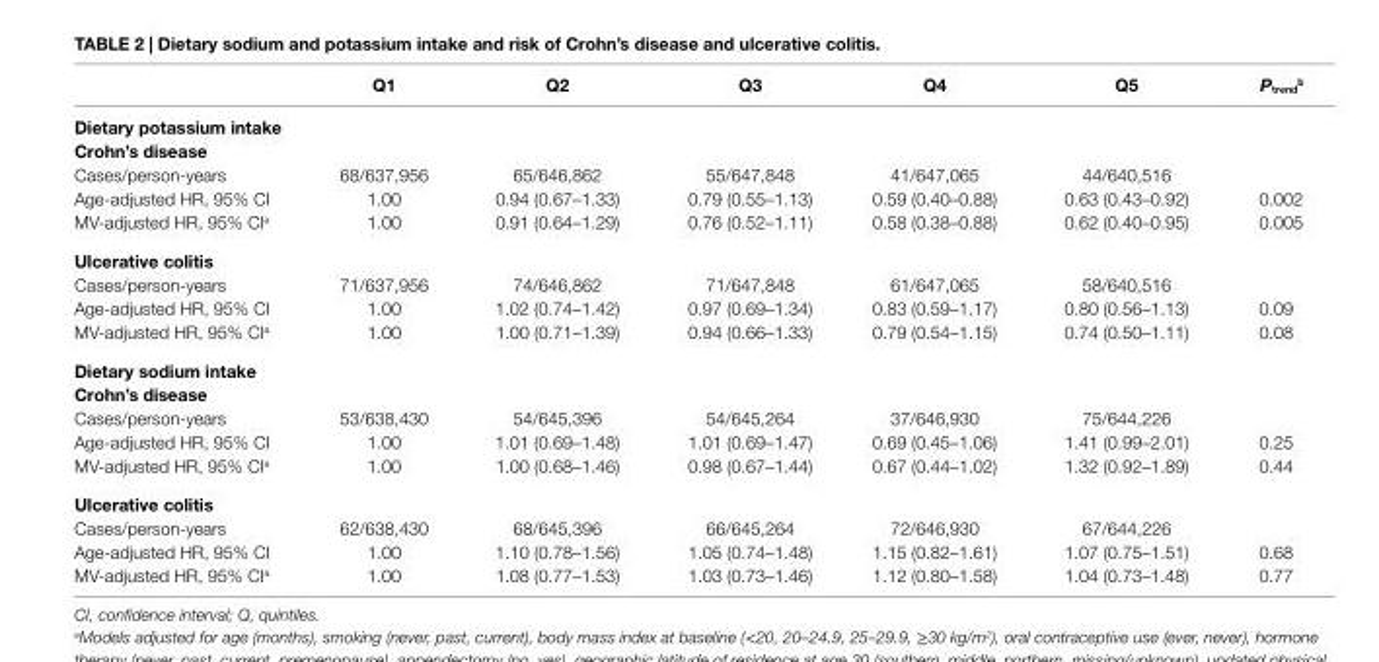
<table><thead><tr><td></td><td>Q1</td><td>Q2</td><td>Q3</td><td>Q4</td><td>Q5</td><td>P<sub>trend</sub><sup>b</sup></td></tr></thead><tbody><tr><td colspan="7">Dietary potassium intake</td></tr><tr><td colspan="7">crohn’s disease</td></tr><tr><td>Cases/person-years</td><td>68/637,956</td><td>65/646,862</td><td>55/647,848</td><td>41/647,065</td><td>44/640,516</td><td></td></tr><tr><td>Age-adjusted HR, 95% CI</td><td>1.00</td><td>0.94 (0.67–1.33)</td><td>0.79 (0.55–1.13)</td><td>0.59 (0.40–0.88)</td><td>0.63 (0.43–0.92)</td><td>0.002</td></tr><tr><td>MV-adjusted HR, 95% CI<sup>a</sup></td><td>1.00</td><td>0.91 (0.64–1.29)</td><td>0.76 (0.52–1.11)</td><td>0.58 (0.38–0.88)</td><td>0.62 (0.40–0.95)</td><td>0.005</td></tr><tr><td colspan="7">Ulcerative colitis</td></tr><tr><td>Cases/person-years</td><td>71/637,956</td><td>74/646,862</td><td>71/647,848</td><td>61/647,065</td><td>58/640,516</td><td></td></tr><tr><td>Age-adjusted HR, 95% CI</td><td>1.00</td><td>1.02 (0.74–1.42)</td><td>0.97 (0.69–1.34)</td><td>0.83 (0.59–1.17)</td><td>0.80 (0.56–1.13)</td><td>0.09</td></tr><tr><td>MV-adjusted HR, 95% CI<sup>a</sup></td><td>1.00</td><td>1.00 (0.71–1.39)</td><td>0.94 (0.66–1.33)</td><td>0.79 (0.54–1.15)</td><td>0.74 (0.50–1.11)</td><td>0.08</td></tr><tr><td colspan="7">Dietary sodium intake</td></tr><tr><td colspan="7">crohn’s disease</td></tr><tr><td>Cases/person-years</td><td>53/638,430</td><td>54/645,396</td><td>54/645,264</td><td>37/646,930</td><td>75/644,226</td><td></td></tr><tr><td>Age-adjusted HR, 95% CI</td><td>1.00</td><td>1.01 (0.69–1.48)</td><td>1.01 (0.69–1.47)</td><td>0.69 (0.45–1.06)</td><td>1.41 (0.99–2.01)</td><td>0.25</td></tr><tr><td>MV-adjusted HR, 95% CI<sup>a</sup></td><td>1.00</td><td>1.00 (0.68–1.46)</td><td>0.98 (0.67–1.44)</td><td>0.67 (0.44–1.02)</td><td>1.32 (0.92–1.89)</td><td>0.44</td></tr><tr><td colspan="7">Ulcerative colitis</td></tr><tr><td>Cases/person-years</td><td>62/638,430</td><td>68/645,396</td><td>66/645,264</td><td>72/646,930</td><td>67/644,226</td><td></td></tr><tr><td>Age-adjusted HR, 95% CI</td><td>1.00</td><td>1.10 (0.78–1.56)</td><td>1.05 (0.74–1.48)</td><td>1.15 (0.82–1.61)</td><td>1.07 (0.75–1.51)</td><td>0.68</td></tr><tr><td>MV-adjusted HR, 95% CI<sup>a</sup></td><td>1.00</td><td>1.08 (0.77–1.53)</td><td>1.03 (0.73–1.46)</td><td>1.12 (0.80–1.58)</td><td>1.04 (0.73–1.48)</td><td>0.77</td></tr></tbody></table>